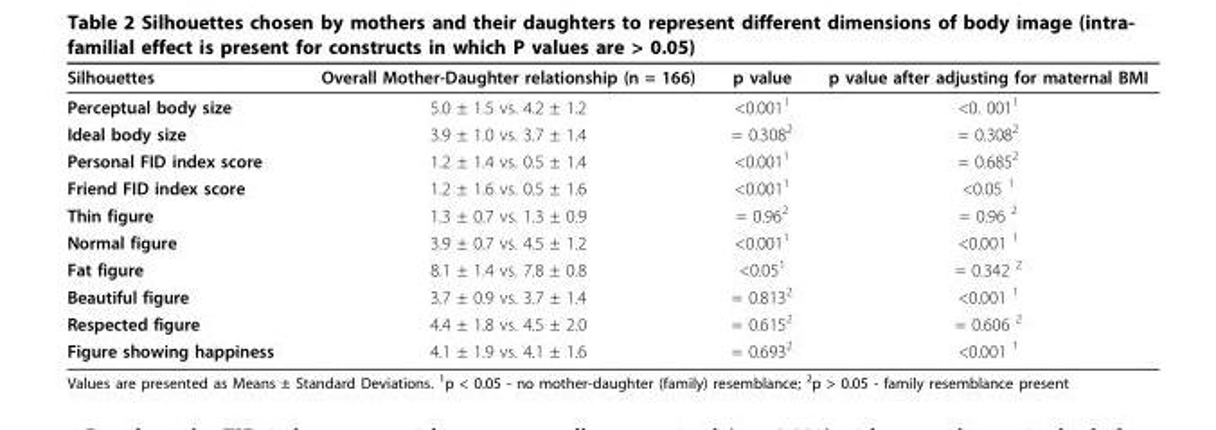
<table><thead><tr><td>Silhouettes</td><td>Overall Mother-Daughter relationship (n = 166)</td><td>p value</td><td>p value after adjusting for maternal BMI</td></tr></thead><tbody><tr><td>Perceptual body size</td><td>5.0 ± 1.5 vs. 4.2 ± 1.2</td><td>&lt;0.001<sup>1</sup></td><td>&lt;0. 001<sup>1</sup></td></tr><tr><td>Ideal body size</td><td>3.9 ± 1.0 vs. 3.7 ± 1.4</td><td>= 0.308<sup>2</sup></td><td>= 0.308<sup>2</sup></td></tr><tr><td>Personal FID index score</td><td>1.2 ± 1.4 vs. 0.5 ± 1.4</td><td>&lt;0.001<sup>1</sup></td><td>= 0.685<sup>2</sup></td></tr><tr><td>Friend FID index score</td><td>1.2 ± 1.6 vs. 0.5 ± 1.6</td><td>&lt;0.001<sup>1</sup></td><td>&lt;0.05 <sup>1</sup></td></tr><tr><td>Thin figure</td><td>1.3 ± 0.7 vs. 1.3 ± 0.9</td><td>= 0.96<sup>2</sup></td><td>= 0.96 <sup>2</sup></td></tr><tr><td>Normal figure</td><td>3.9 ± 0.7 vs. 4.5 ± 1.2</td><td>&lt;0.001<sup>1</sup></td><td>&lt;0.001 <sup>1</sup></td></tr><tr><td>Fat figure</td><td>8.1 ± 1.4 vs. 7.8 ± 0.8</td><td>&lt;0.05<sup>1</sup></td><td>= 0.342 <sup>2</sup></td></tr><tr><td>Beautiful figure</td><td>3.7 ± 0.9 vs. 3.7 ± 1.4</td><td>= 0.813<sup>2</sup></td><td>&lt;0.001 <sup>1</sup></td></tr><tr><td>Respected figure</td><td>4.4 ± 1.8 vs. 4.5 ± 2.0</td><td>= 0.615<sup>2</sup></td><td>= 0.606 <sup>2</sup></td></tr><tr><td>Figure showing happiness</td><td>4.1 ± 1.9 vs. 4.1 ± 1.6</td><td>= 0.693<sup>2</sup></td><td>&lt;0.001 <sup>1</sup></td></tr></tbody></table>